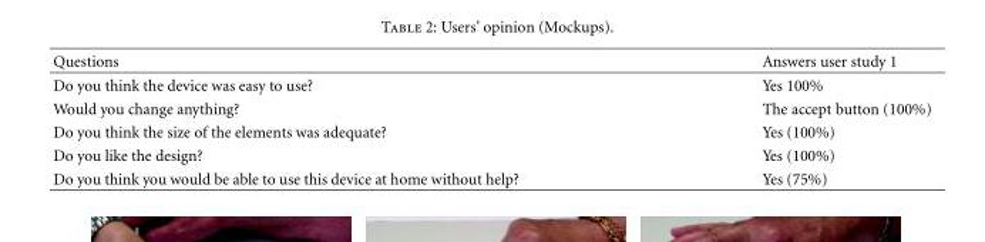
<table><thead><tr><td>Questions</td><td>Answers user study 1</td></tr></thead><tbody><tr><td>Do you think the device was easy to use?</td><td>Yes 100%</td></tr><tr><td>Would you change anything?</td><td>The accept button (100%)</td></tr><tr><td>Do you think the size of the elements was adequate?</td><td>Yes (100%)</td></tr><tr><td>Do you like the design?</td><td>Yes (100%)</td></tr><tr><td>Do you think you would be able to use this device at home without help?</td><td>Yes (75%)</td></tr></tbody></table>